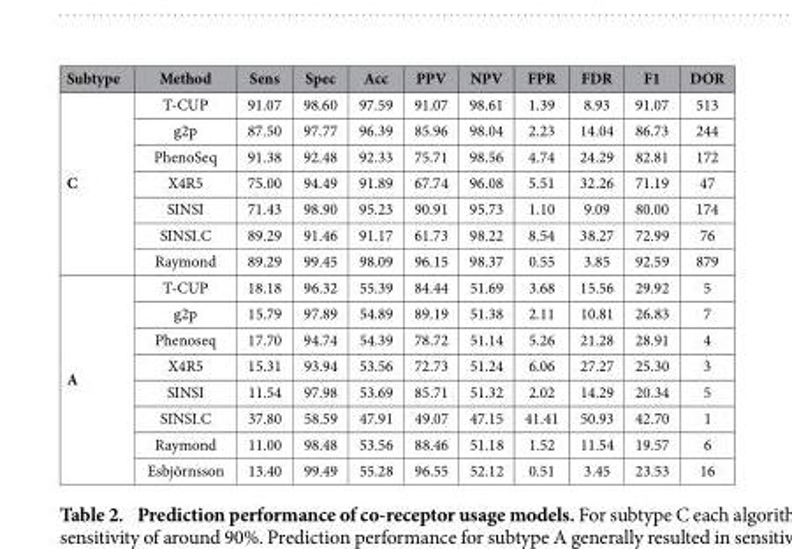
<table><thead><tr><td>Subtype</td><td>Method</td><td>Sens</td><td>Spec</td><td>Acc</td><td>PPV</td><td>NPV</td><td>FPR</td><td>FDR</td><td>F1</td><td>DOR</td></tr></thead><tbody><tr><td rowspan="7">C</td><td>T-CUP</td><td>91.07</td><td>98.60</td><td>97.59</td><td>91.07</td><td>98.61</td><td>1.39</td><td>8.93</td><td>91.07</td><td>513</td></tr><tr><td>g2p</td><td>87.50</td><td>97.77</td><td>96.39</td><td>85.96</td><td>98.04</td><td>2.23</td><td>14.04</td><td>86.73</td><td>244</td></tr><tr><td>PhenoSeq</td><td>91.38</td><td>92.48</td><td>92.33</td><td>75.71</td><td>98.56</td><td>4.74</td><td>24.29</td><td>82.81</td><td>172</td></tr><tr><td>X4R5</td><td>75.00</td><td>94.49</td><td>91.89</td><td>67.74</td><td>96.08</td><td>5.51</td><td>32.26</td><td>71.19</td><td>47</td></tr><tr><td>SINSI</td><td>71.43</td><td>98.90</td><td>95.23</td><td>90.91</td><td>95.73</td><td>1.10</td><td>9.09</td><td>80.00</td><td>174</td></tr><tr><td>SINSI.C</td><td>89.29</td><td>91.46</td><td>91.17</td><td>61.73</td><td>98.22</td><td>8.54</td><td>38.27</td><td>72.99</td><td>76</td></tr><tr><td>Raymond</td><td>89.29</td><td>99.45</td><td>98.09</td><td>96.15</td><td>98.37</td><td>0.55</td><td>3.85</td><td>92.59</td><td>879</td></tr><tr><td rowspan="8">A</td><td>T-CUP</td><td>18.18</td><td>96.32</td><td>55.39</td><td>84.44</td><td>51.69</td><td>3.68</td><td>15.56</td><td>29.92</td><td>5</td></tr><tr><td>g2p</td><td>15.79</td><td>97.89</td><td>54.89</td><td>89.19</td><td>51.38</td><td>2.11</td><td>10.81</td><td>26.83</td><td>7</td></tr><tr><td>Phenoseq</td><td>17.70</td><td>94.74</td><td>54.39</td><td>78.72</td><td>51.14</td><td>5.26</td><td>21.28</td><td>28.91</td><td>4</td></tr><tr><td>X4R5</td><td>15.31</td><td>93.94</td><td>53.56</td><td>72.73</td><td>51.24</td><td>6.06</td><td>27.27</td><td>25.30</td><td>3</td></tr><tr><td>SINSI</td><td>11.54</td><td>97.98</td><td>53.69</td><td>85.71</td><td>51.32</td><td>2.02</td><td>14.29</td><td>20.34</td><td>5</td></tr><tr><td>SINSI.C</td><td>37.80</td><td>58.59</td><td>47.91</td><td>49.07</td><td>47.15</td><td>41.41</td><td>50.93</td><td>42.70</td><td>1</td></tr><tr><td>Raymond</td><td>11.00</td><td>98.48</td><td>53.56</td><td>88.46</td><td>51.18</td><td>1.52</td><td>11.54</td><td>19.57</td><td>6</td></tr><tr><td>Esbjörnsson</td><td>13.40</td><td>99.49</td><td>55.28</td><td>96.55</td><td>52.12</td><td>0.51</td><td>3.45</td><td>23.53</td><td>16</td></tr></tbody></table>